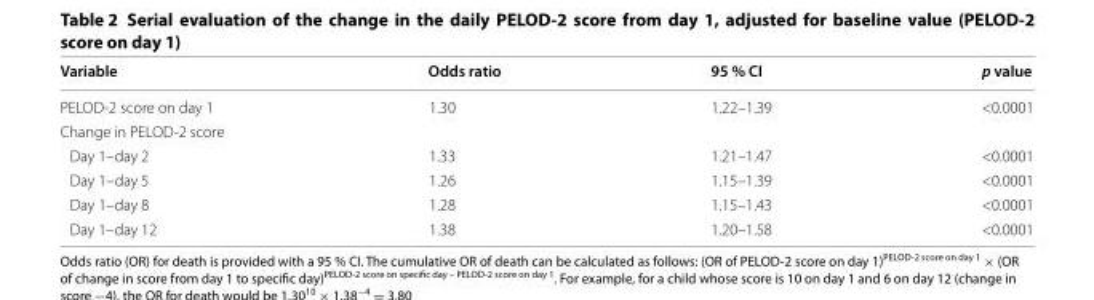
<table><thead><tr><td>Variable</td><td>Odds ratio</td><td>95 % CI</td><td>p value</td></tr></thead><tbody><tr><td>PELOD-2 score on day 1</td><td>1.30</td><td>1.22–1.39</td><td>&lt;0.0001</td></tr><tr><td colspan="4">Change in PELOD-2 score</td></tr><tr><td>Day 1–day 2</td><td>1.33</td><td>1.21–1.47</td><td>&lt;0.0001</td></tr><tr><td>Day 1–day 5</td><td>1.26</td><td>1.15–1.39</td><td>&lt;0.0001</td></tr><tr><td>Day 1–day 8</td><td>1.28</td><td>1.15–1.43</td><td>&lt;0.0001</td></tr><tr><td>Day 1–day 12</td><td>1.38</td><td>1.20–1.58</td><td>&lt;0.0001</td></tr></tbody></table>